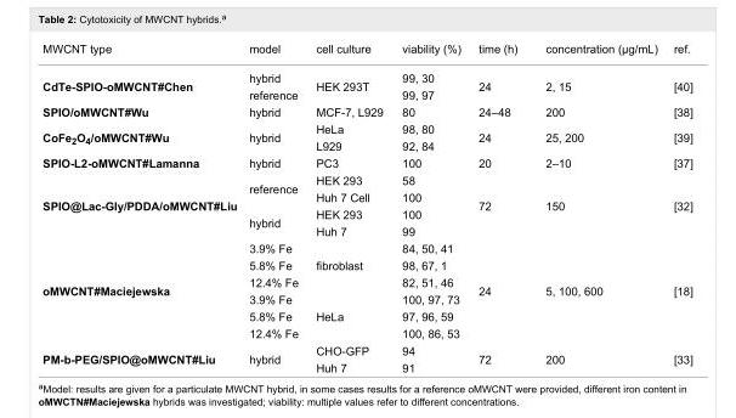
<table><tbody><tr><td>MWCNT type</td><td>model</td><td>cell culture</td><td>viability (%)</td><td>time (h)</td><td>concentration (µg/mL)</td><td>ref.</td></tr><tr><td rowspan="2">CdTe-SPIO-oMWCNT#Chen</td><td>hybrid</td><td rowspan="2">HEK 293T</td><td>99, 30</td><td rowspan="2">24</td><td rowspan="2">2, 15</td><td rowspan="2">[40]</td></tr><tr><td>reference</td><td>99, 97</td></tr><tr><td>SPIO/oMWCNT#Wu</td><td>hybrid</td><td>MCF-7, L929</td><td>80</td><td>24–48</td><td>200</td><td>[38]</td></tr><tr><td rowspan="2">CoFe<sub>2</sub>O<sub>4</sub>/oMWCNT#Wu</td><td rowspan="2">hybrid</td><td>HeLa</td><td>98, 80</td><td rowspan="2">24</td><td rowspan="2">25, 200</td><td rowspan="2">[39]</td></tr><tr><td>L929</td><td>92, 84</td></tr><tr><td>SPIO-L2-oMWCNT#Lamanna</td><td>hybrid</td><td>PC3</td><td>100</td><td>20</td><td>2–10</td><td>[37]</td></tr><tr><td rowspan="4">SPIO@Lac-Gly/PDDA/oMWCNT#Liu</td><td rowspan="2">reference</td><td>HEK 293</td><td>58</td><td rowspan="4">72</td><td rowspan="4">150</td><td rowspan="4">[32]</td></tr><tr><td>Huh 7 Cell</td><td>100</td></tr><tr><td rowspan="2">hybrid</td><td>HEK 293</td><td>100</td></tr><tr><td>Huh 7</td><td>99</td></tr><tr><td rowspan="6">oMWCNT#Maciejewska</td><td>3.9% Fe</td><td rowspan="3">fibroblast</td><td>84, 50, 41</td><td rowspan="6">24</td><td rowspan="6">5, 100, 600</td><td rowspan="6">[18]</td></tr><tr><td>5.8% Fe</td><td>98, 67, 1</td></tr><tr><td>12.4% Fe</td><td>82, 51, 46</td></tr><tr><td>3.9% Fe</td><td rowspan="3">HeLa</td><td>100, 97, 73</td></tr><tr><td>5.8% Fe</td><td>97, 96, 59</td></tr><tr><td>12.4% Fe</td><td>100, 86, 53</td></tr><tr><td rowspan="2">PM-b-PEG/SPIO@oMWCNT#Liu</td><td rowspan="2">hybrid</td><td>CHO-GFP</td><td>94</td><td rowspan="2">72</td><td rowspan="2">200</td><td rowspan="2">[33]</td></tr><tr><td>Huh 7</td><td>91</td></tr></tbody></table>